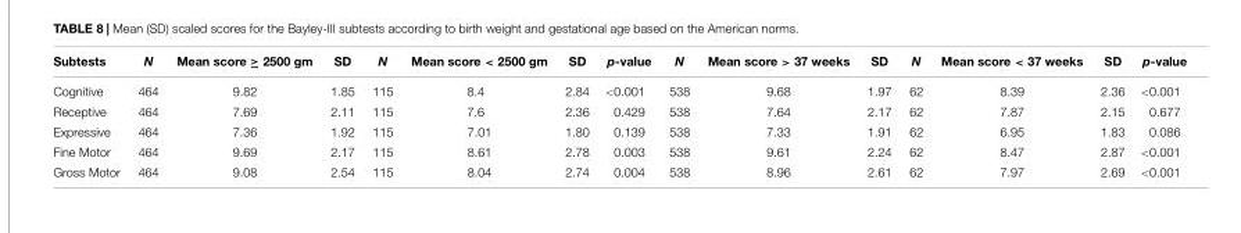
<table><thead><tr><td>Subtests</td><td>N</td><td>Mean score ≥ 2500 gm</td><td>SD</td><td>N</td><td>Mean score &lt; 2500 gm</td><td>SD</td><td>p-value</td><td>N</td><td>Mean score &gt; 37 weeks</td><td>SD</td><td>N</td><td>Mean score &lt; 37 weeks</td><td>SD</td><td>p-value</td></tr></thead><tbody><tr><td>Cognitive</td><td>464</td><td>9.82</td><td>1.85</td><td>115</td><td>8.4</td><td>2.84</td><td>&lt;0.001</td><td>538</td><td>9.68</td><td>1.97</td><td>62</td><td>8.39</td><td>2.36</td><td>&lt;0.001</td></tr><tr><td>Receptive</td><td>464</td><td>7.69</td><td>2.11</td><td>115</td><td>7.6</td><td>2.36</td><td>0.429</td><td>538</td><td>7.64</td><td>2.17</td><td>62</td><td>7.87</td><td>2.15</td><td>0.677</td></tr><tr><td>Expressive</td><td>464</td><td>7.36</td><td>1.92</td><td>115</td><td>7.01</td><td>1.80</td><td>0.139</td><td>538</td><td>7.33</td><td>1.91</td><td>62</td><td>6.95</td><td>1.83</td><td>0.086</td></tr><tr><td>Fine Motor</td><td>464</td><td>9.69</td><td>2.17</td><td>115</td><td>8.61</td><td>2.78</td><td>0.003</td><td>538</td><td>9.61</td><td>2.24</td><td>62</td><td>8.47</td><td>2.87</td><td>&lt;0.001</td></tr><tr><td>Gross Motor</td><td>464</td><td>9.08</td><td>2.54</td><td>115</td><td>8.04</td><td>2.74</td><td>0.004</td><td>538</td><td>8.96</td><td>2.61</td><td>62</td><td>7.97</td><td>2.69</td><td>&lt;0.001</td></tr></tbody></table>